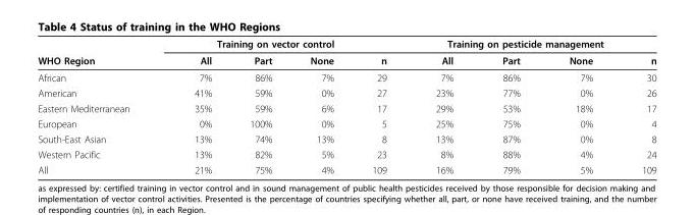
<table><thead><tr><td rowspan="2">WHO Region</td><td colspan="4">Training on vector control</td><td colspan="4">Training on pesticide management</td></tr><tr><td>All</td><td>Part</td><td>None</td><td>n</td><td>All</td><td>Part</td><td>None</td><td>n</td></tr></thead><tbody><tr><td>African</td><td>7%</td><td>86%</td><td>7%</td><td>29</td><td>7%</td><td>86%</td><td>7%</td><td>30</td></tr><tr><td>American</td><td>41%</td><td>59%</td><td>0%</td><td>27</td><td>23%</td><td>77%</td><td>0%</td><td>26</td></tr><tr><td>Eastern Mediterranean</td><td>35%</td><td>59%</td><td>6%</td><td>17</td><td>29%</td><td>53%</td><td>18%</td><td>17</td></tr><tr><td>European</td><td>0%</td><td>100%</td><td>0%</td><td>5</td><td>25%</td><td>75%</td><td>0%</td><td>4</td></tr><tr><td>South-East Asian</td><td>13%</td><td>74%</td><td>13%</td><td>8</td><td>13%</td><td>87%</td><td>0%</td><td>8</td></tr><tr><td>Western Pacific</td><td>13%</td><td>82%</td><td>5%</td><td>23</td><td>8%</td><td>88%</td><td>4%</td><td>24</td></tr><tr><td>All</td><td>21%</td><td>75%</td><td>4%</td><td>109</td><td>16%</td><td>79%</td><td>5%</td><td>109</td></tr></tbody></table>